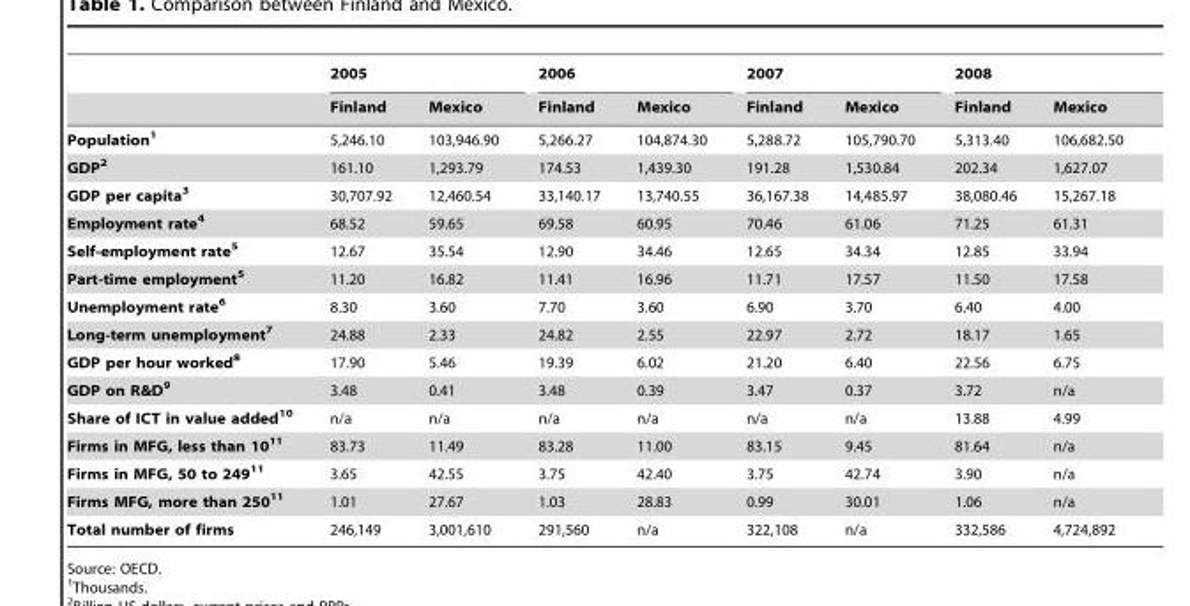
<table><thead><tr><td rowspan="2"></td><td colspan="2">2005</td><td colspan="2">2006</td><td colspan="2">2007</td><td colspan="2">2008</td></tr><tr><td>Finland</td><td>Mexico</td><td>Finland</td><td>Mexico</td><td>Finland</td><td>Mexico</td><td>Finland</td><td>Mexico</td></tr></thead><tbody><tr><td>Population1</td><td>5,246.10</td><td>103,946.90</td><td>5,266.27</td><td>104,874.30</td><td>5,288.72</td><td>105,790.70</td><td>5,313.40</td><td>106,682.50</td></tr><tr><td>GDP2</td><td>161.10</td><td>1,293.79</td><td>174.53</td><td>1,439.30</td><td>191.28</td><td>1,530.84</td><td>202.34</td><td>1,627.07</td></tr><tr><td>GDP per capita3</td><td>30,707.92</td><td>12,460.54</td><td>33,140.17</td><td>13,740.55</td><td>36,167.38</td><td>14,485.97</td><td>38,080.46</td><td>15,267.18</td></tr><tr><td>Employment rate4</td><td>68.52</td><td>59.65</td><td>69.58</td><td>60.95</td><td>70.46</td><td>61.06</td><td>71.25</td><td>61.31</td></tr><tr><td>Self-employment rate5</td><td>12.67</td><td>35.54</td><td>12.90</td><td>34.46</td><td>12.65</td><td>34.34</td><td>12.85</td><td>33.94</td></tr><tr><td>Part-time employment5</td><td>11.20</td><td>16.82</td><td>11.41</td><td>16.96</td><td>11.71</td><td>17.57</td><td>11.50</td><td>17.58</td></tr><tr><td>Unemployment rate6</td><td>8.30</td><td>3.60</td><td>7.70</td><td>3.60</td><td>6.90</td><td>3.70</td><td>6.40</td><td>4.00</td></tr><tr><td>Long-term unemployment7</td><td>24.88</td><td>2.33</td><td>24.82</td><td>2.55</td><td>22.97</td><td>2.72</td><td>18.17</td><td>1.65</td></tr><tr><td>GDP per hour worked8</td><td>17.90</td><td>5.46</td><td>19.39</td><td>6.02</td><td>21.20</td><td>6.40</td><td>22.56</td><td>6.75</td></tr><tr><td>GDP on R&amp;D9</td><td>3.48</td><td>0.41</td><td>3.48</td><td>0.39</td><td>3.47</td><td>0.37</td><td>3.72</td><td>n/a</td></tr><tr><td>Share of ICT in value added10</td><td>n/a</td><td>n/a</td><td>n/a</td><td>n/a</td><td>n/a</td><td>n/a</td><td>13.88</td><td>4.99</td></tr><tr><td>Firms in MFG, less than 1011</td><td>83.73</td><td>11.49</td><td>83.28</td><td>11.00</td><td>83.15</td><td>9.45</td><td>81.64</td><td>n/a</td></tr><tr><td>Firms in MFG, 50 to 24911</td><td>3.65</td><td>42.55</td><td>3.75</td><td>42.40</td><td>3.75</td><td>42.74</td><td>3.90</td><td>n/a</td></tr><tr><td>Firms MFG, more than 25011</td><td>1.01</td><td>27.67</td><td>1.03</td><td>28.83</td><td>0.99</td><td>30.01</td><td>1.06</td><td>n/a</td></tr><tr><td>Total number of firms</td><td>246,149</td><td>3,001,610</td><td>291,560</td><td>n/a</td><td>322,108</td><td>n/a</td><td>332,586</td><td>4,724,892</td></tr></tbody></table>